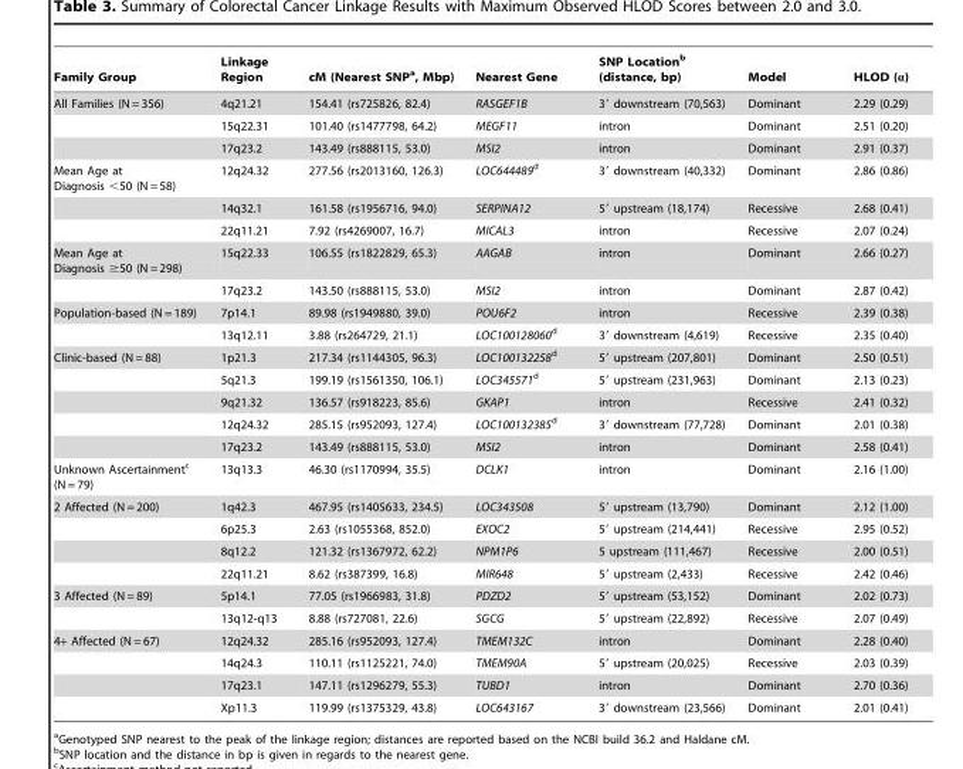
<table><thead><tr><td>Family Group</td><td>Linkage Region</td><td>cM (Nearest SNP<sup>a</sup>, Mbp)</td><td>Nearest Gene</td><td>SNP Location<sup>b</sup> (distance, bp)</td><td>Model</td><td>HLOD (α)</td></tr></thead><tbody><tr><td rowspan="3">All Families (N = 356)</td><td>4q21.21</td><td>154.41 (rs725826, 82.4)</td><td>RASGEF1B</td><td>3′ downstream (70,563)</td><td>Dominant</td><td>2.29 (0.29)</td></tr><tr><td>15q22.31</td><td>101.40 (rs1477798, 64.2)</td><td>MEGF11</td><td>intron</td><td>Dominant</td><td>2.51 (0.20)</td></tr><tr><td>17q23.2</td><td>143.49 (rs888115, 53.0)</td><td>MSI2</td><td>intron</td><td>Dominant</td><td>2.91 (0.37)</td></tr><tr><td rowspan="3">Mean Age at Diagnosis &lt;50 (N = 58)</td><td>12q24.32</td><td>277.56 (rs2013160, 126.3)</td><td>LOC644489d</td><td>3′ downstream (40,332)</td><td>Dominant</td><td>2.86 (0.86)</td></tr><tr><td>14q32.1</td><td>161.58 (rs1956716, 94.0)</td><td>SERPINA12</td><td>5′ upstream (18,174)</td><td>Recessive</td><td>2.68 (0.41)</td></tr><tr><td>22q11.21</td><td>7.92 (rs4269007, 16.7)</td><td>MICAL3</td><td>intron</td><td>Recessive</td><td>2.07 (0.24)</td></tr><tr><td rowspan="2">Mean Age at Diagnosis ≥50 (N = 298)</td><td>15q22.33</td><td>106.55 (rs1822829, 65.3)</td><td>AAGAB</td><td>intron</td><td>Dominant</td><td>2.66 (0.27)</td></tr><tr><td>17q23.2</td><td>143.50 (rs888115, 53.0)</td><td>MSI2</td><td>intron</td><td>Dominant</td><td>2.87 (0.42)</td></tr><tr><td rowspan="2">Population-based (N = 189)</td><td>7p14.1</td><td>89.98 (rs1949880, 39.0)</td><td>POU6F2</td><td>intron</td><td>Recessive</td><td>2.39 (0.38)</td></tr><tr><td>13q12.11</td><td>3.88 (rs264729, 21.1)</td><td>LOC100128060d</td><td>3′ downstream (4,619)</td><td>Recessive</td><td>2.35 (0.40)</td></tr><tr><td rowspan="5">Clinic-based (N = 88)</td><td>1p21.3</td><td>217.34 (rs1144305, 96.3)</td><td>LOC100132258d</td><td>5′ upstream (207,801)</td><td>Dominant</td><td>2.50 (0.51)</td></tr><tr><td>5q21.3</td><td>199.19 (rs1561350, 106.1)</td><td>LOC345571d</td><td>5′ upstream (231,963)</td><td>Dominant</td><td>2.13 (0.23)</td></tr><tr><td>9q21.32</td><td>136.57 (rs918223, 85.6)</td><td>GKAP1</td><td>intron</td><td>Recessive</td><td>2.41 (0.32)</td></tr><tr><td>12q24.32</td><td>285.15 (rs952093, 127.4)</td><td>LOC100132385d</td><td>3′ downstream (77,728)</td><td>Dominant</td><td>2.01 (0.38)</td></tr><tr><td>17q23.2</td><td>143.49 (rs888115, 53.0)</td><td>MSI2</td><td>intron</td><td>Dominant</td><td>2.58 (0.41)</td></tr><tr><td>Unknown Ascertainment<sup>c</sup> (N = 79)</td><td>13q13.3</td><td>46.30 (rs1170994, 35.5)</td><td>DCLK1</td><td>intron</td><td>Dominant</td><td>2.16 (1.00)</td></tr><tr><td rowspan="4">2 Affected (N = 200)</td><td>1q42.3</td><td>467.95 (rs1405633, 234.5)</td><td>LOC343508</td><td>5′ upstream (13,790)</td><td>Dominant</td><td>2.12 (1.00)</td></tr><tr><td>6p25.3</td><td>2.63 (rs1055368, 852.0)</td><td>EXOC2</td><td>5′ upstream (214,441)</td><td>Recessive</td><td>2.95 (0.52)</td></tr><tr><td>8q12.2</td><td>121.32 (rs1367972, 62.2)</td><td>NPM1P6</td><td>5 upstream (111,467)</td><td>Recessive</td><td>2.00 (0.51)</td></tr><tr><td>22q11.21</td><td>8.62 (rs387399, 16.8)</td><td>MIR648</td><td>5′ upstream (2,433)</td><td>Recessive</td><td>2.42 (0.46)</td></tr><tr><td rowspan="2">3 Affected (N = 89)</td><td>5p14.1</td><td>77.05 (rs1966983, 31.8)</td><td>PDZD2</td><td>5′ upstream (53,152)</td><td>Dominant</td><td>2.02 (0.73)</td></tr><tr><td>13q12-q13</td><td>8.88 (rs727081, 22.6)</td><td>SGCG</td><td>5′ upstream (22,892)</td><td>Recessive</td><td>2.07 (0.49)</td></tr><tr><td rowspan="4">4+ Affected (N = 67)</td><td>12q24.32</td><td>285.16 (rs952093, 127.4)</td><td>TMEM132C</td><td>intron</td><td>Dominant</td><td>2.28 (0.40)</td></tr><tr><td>14q24.3</td><td>110.11 (rs1125221, 74.0)</td><td>TMEM90A</td><td>5′ upstream (20,025)</td><td>Recessive</td><td>2.03 (0.39)</td></tr><tr><td>17q23.1</td><td>147.11 (rs1296279, 55.3)</td><td>TUBD1</td><td>intron</td><td>Dominant</td><td>2.70 (0.36)</td></tr><tr><td>Xp11.3</td><td>119.99 (rs1375329, 43.8)</td><td>LOC643167</td><td>3′ downstream (23,566)</td><td>Dominant</td><td>2.01 (0.41)</td></tr></tbody></table>